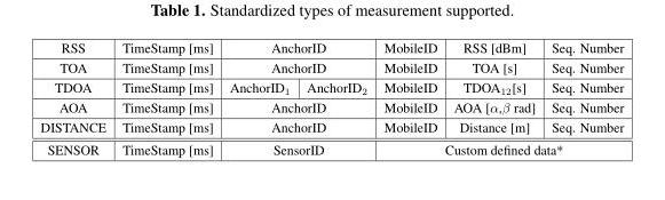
<table><tbody><tr><td>RSS</td><td>TimeStamp [ms]</td><td colspan="2">AnchorID</td><td>MobileID</td><td>RSS [dBm]</td><td>Seq. Number</td></tr><tr><td>TOA</td><td>TimeStamp [ms]</td><td colspan="2">AnchorID</td><td>MobileID</td><td>TOA [s]</td><td>Seq. Number</td></tr><tr><td>TDOA</td><td>TimeStamp [ms]</td><td>AnchorID<sub>1</sub></td><td>AnchorID<sub>2</sub></td><td>MobileID</td><td>TDOA<sub>12</sub>[s]</td><td>Seq. Number</td></tr><tr><td>AOA</td><td>TimeStamp [ms]</td><td colspan="2">AnchorID</td><td>MobileID</td><td>AOA [α,β rad]</td><td>Seq. Number</td></tr><tr><td>DISTANCE</td><td>TimeStamp [ms]</td><td colspan="2">AnchorID</td><td>MobileID</td><td>Distance [m]</td><td>Seq. Number</td></tr><tr><td>SENSOR</td><td>TimeStamp [ms]</td><td colspan="2">SensorID</td><td colspan="3">Custom defined data*</td></tr></tbody></table>